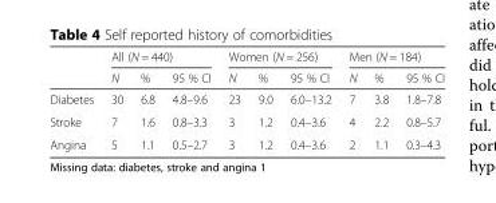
<table><thead><tr><td rowspan="2"></td><td colspan="3">All (N = 440)</td><td colspan="3">Women (N = 256)</td><td colspan="3">Men (N = 184)</td></tr><tr><td>N</td><td>%</td><td>95 % CI</td><td>N</td><td>%</td><td>95 % CI</td><td>N</td><td>%</td><td>95 % CI</td></tr></thead><tbody><tr><td>Diabetes</td><td>30</td><td>6.8</td><td>4.8–9.6</td><td>23</td><td>9.0</td><td>6.0–13.2</td><td>7</td><td>3.8</td><td>1.8–7.8</td></tr><tr><td>Stroke</td><td>7</td><td>1.6</td><td>0.8–3.3</td><td>3</td><td>1.2</td><td>0.4–3.6</td><td>4</td><td>2.2</td><td>0.8–5.7</td></tr><tr><td>Angina</td><td>5</td><td>1.1</td><td>0.5–2.7</td><td>3</td><td>1.2</td><td>0.4–3.6</td><td>2</td><td>1.1</td><td>0.3–4.3</td></tr></tbody></table>